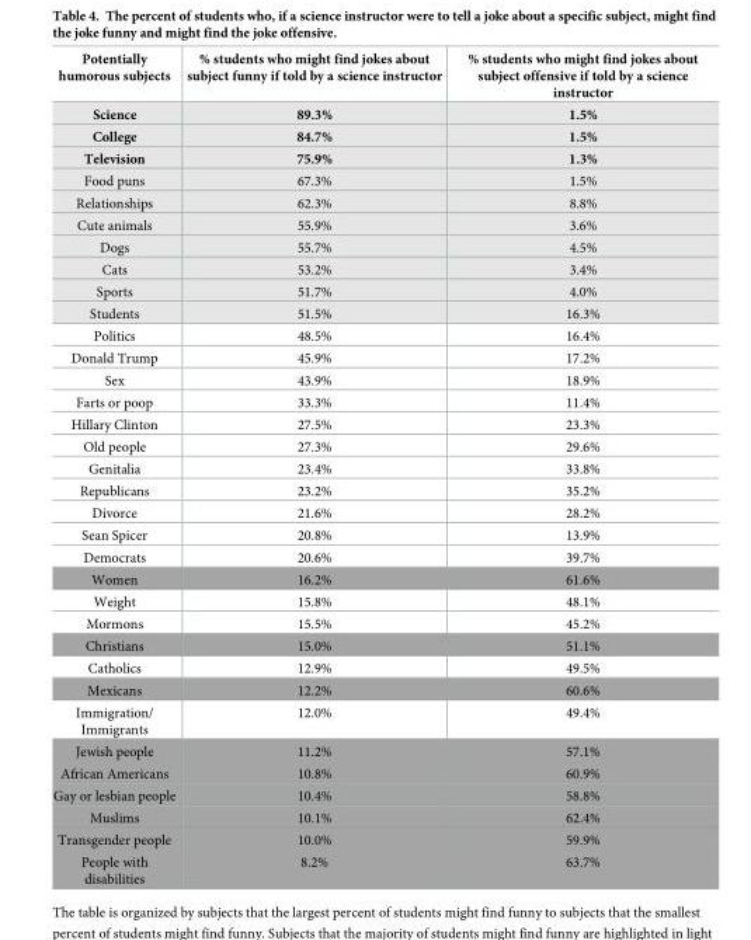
<table><thead><tr><td>Potentially humorous subjects</td><td>% students who might find jokes about subject funny if told by a science instructor</td><td>% students who might find jokes about subject offensive if told by a science instructor</td></tr></thead><tbody><tr><td>Science</td><td>89.3%</td><td>1.5%</td></tr><tr><td>College</td><td>84.7%</td><td>1.5%</td></tr><tr><td>Television</td><td>75.9%</td><td>1.3%</td></tr><tr><td>Food puns</td><td>67.3%</td><td>1.5%</td></tr><tr><td>Relationships</td><td>62.3%</td><td>8.8%</td></tr><tr><td>Cute animals</td><td>55.9%</td><td>3.6%</td></tr><tr><td>Dogs</td><td>55.7%</td><td>4.5%</td></tr><tr><td>Cats</td><td>53.2%</td><td>3.4%</td></tr><tr><td>Sports</td><td>51.7%</td><td>4.0%</td></tr><tr><td>Students</td><td>51.5%</td><td>16.3%</td></tr><tr><td>Politics</td><td>48.5%</td><td>16.4%</td></tr><tr><td>Donald Trump</td><td>45.9%</td><td>17.2%</td></tr><tr><td>Sex</td><td>43.9%</td><td>18.9%</td></tr><tr><td>Farts or poop</td><td>33.3%</td><td>11.4%</td></tr><tr><td>Hillary Clinton</td><td>27.5%</td><td>23.3%</td></tr><tr><td>Old people</td><td>27.3%</td><td>29.6%</td></tr><tr><td>Genitalia</td><td>23.4%</td><td>33.8%</td></tr><tr><td>Republicans</td><td>23.2%</td><td>35.2%</td></tr><tr><td>Divorce</td><td>21.6%</td><td>28.2%</td></tr><tr><td>Sean Spicer</td><td>20.8%</td><td>13.9%</td></tr><tr><td>Democrats</td><td>20.6%</td><td>39.7%</td></tr><tr><td>Women</td><td>16.2%</td><td>61.6%</td></tr><tr><td>Weight</td><td>15.8%</td><td>48.1%</td></tr><tr><td>Mormons</td><td>15.5%</td><td>45.2%</td></tr><tr><td>Christians</td><td>15.0%</td><td>51.1%</td></tr><tr><td>Catholics</td><td>12.9%</td><td>49.5%</td></tr><tr><td>Mexicans</td><td>12.2%</td><td>60.6%</td></tr><tr><td>Immigration/ Immigrants</td><td>12.0%</td><td>49.4%</td></tr><tr><td>Jewish people</td><td>11.2%</td><td>57.1%</td></tr><tr><td>African Americans</td><td>10.8%</td><td>60.9%</td></tr><tr><td>Gay or lesbian people</td><td>10.4%</td><td>58.8%</td></tr><tr><td>Muslims</td><td>10.1%</td><td>62.4%</td></tr><tr><td>Transgender people</td><td>10.0%</td><td>59.9%</td></tr><tr><td>People with disabilities</td><td>8.2%</td><td>63.7%</td></tr></tbody></table>